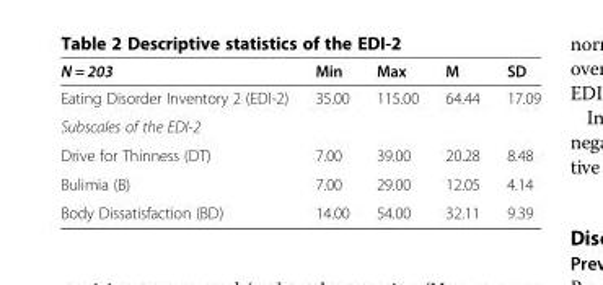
<table><thead><tr><td>N = 203</td><td>Min</td><td>Max</td><td>M</td><td>SD</td></tr></thead><tbody><tr><td>Eating Disorder Inventory 2 (EDI-2)</td><td>35.00</td><td>115.00</td><td>64.44</td><td>17.09</td></tr><tr><td colspan="5">Subscales of the EDI-2</td></tr><tr><td>Drive for Thinness (DT)</td><td>7.00</td><td>39.00</td><td>20.28</td><td>8.48</td></tr><tr><td>Bulimia (B)</td><td>7.00</td><td>29.00</td><td>12.05</td><td>4.14</td></tr><tr><td>Body Dissatisfaction (BD)</td><td>14.00</td><td>54.00</td><td>32.11</td><td>9.39</td></tr></tbody></table>